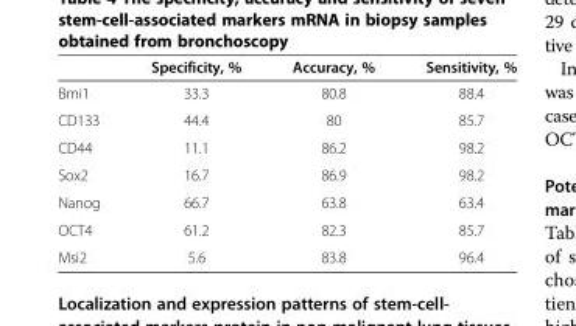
<table><thead><tr><td></td><td>Specificity, %</td><td>Accuracy, %</td><td>Sensitivity, %</td></tr></thead><tbody><tr><td>Bmi1</td><td>33.3</td><td>80.8</td><td>88.4</td></tr><tr><td>CD133</td><td>44.4</td><td>80</td><td>85.7</td></tr><tr><td>CD44</td><td>11.1</td><td>86.2</td><td>98.2</td></tr><tr><td>Sox2</td><td>16.7</td><td>86.9</td><td>98.2</td></tr><tr><td>Nanog</td><td>66.7</td><td>63.8</td><td>63.4</td></tr><tr><td>OCT4</td><td>61.2</td><td>82.3</td><td>85.7</td></tr><tr><td>Msi2</td><td>5.6</td><td>83.8</td><td>96.4</td></tr></tbody></table>